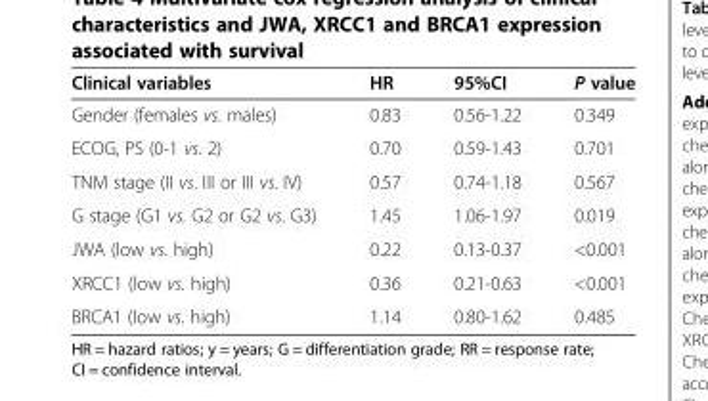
<table><thead><tr><td>Clinical variables</td><td>HR</td><td>95%CI</td><td>P value</td></tr></thead><tbody><tr><td>Gender (females vs. males)</td><td>0.83</td><td>0.56-1.22</td><td>0.349</td></tr><tr><td>ECOG, PS (0-1 vs. 2)</td><td>0.70</td><td>0.59-1.43</td><td>0.701</td></tr><tr><td>TNM stage (II vs. III or III vs. IV)</td><td>0.57</td><td>0.74-1.18</td><td>0.567</td></tr><tr><td>G stage (G1 vs. G2 or G2 vs. G3)</td><td>1.45</td><td>1.06-1.97</td><td>0.019</td></tr><tr><td>JWA (low vs. high)</td><td>0.22</td><td>0.13-0.37</td><td>&lt;0.001</td></tr><tr><td>XRCC1 (low vs. high)</td><td>0.36</td><td>0.21-0.63</td><td>&lt;0.001</td></tr><tr><td>BRCA1 (low vs. high)</td><td>1.14</td><td>0.80-1.62</td><td>0.485</td></tr></tbody></table>